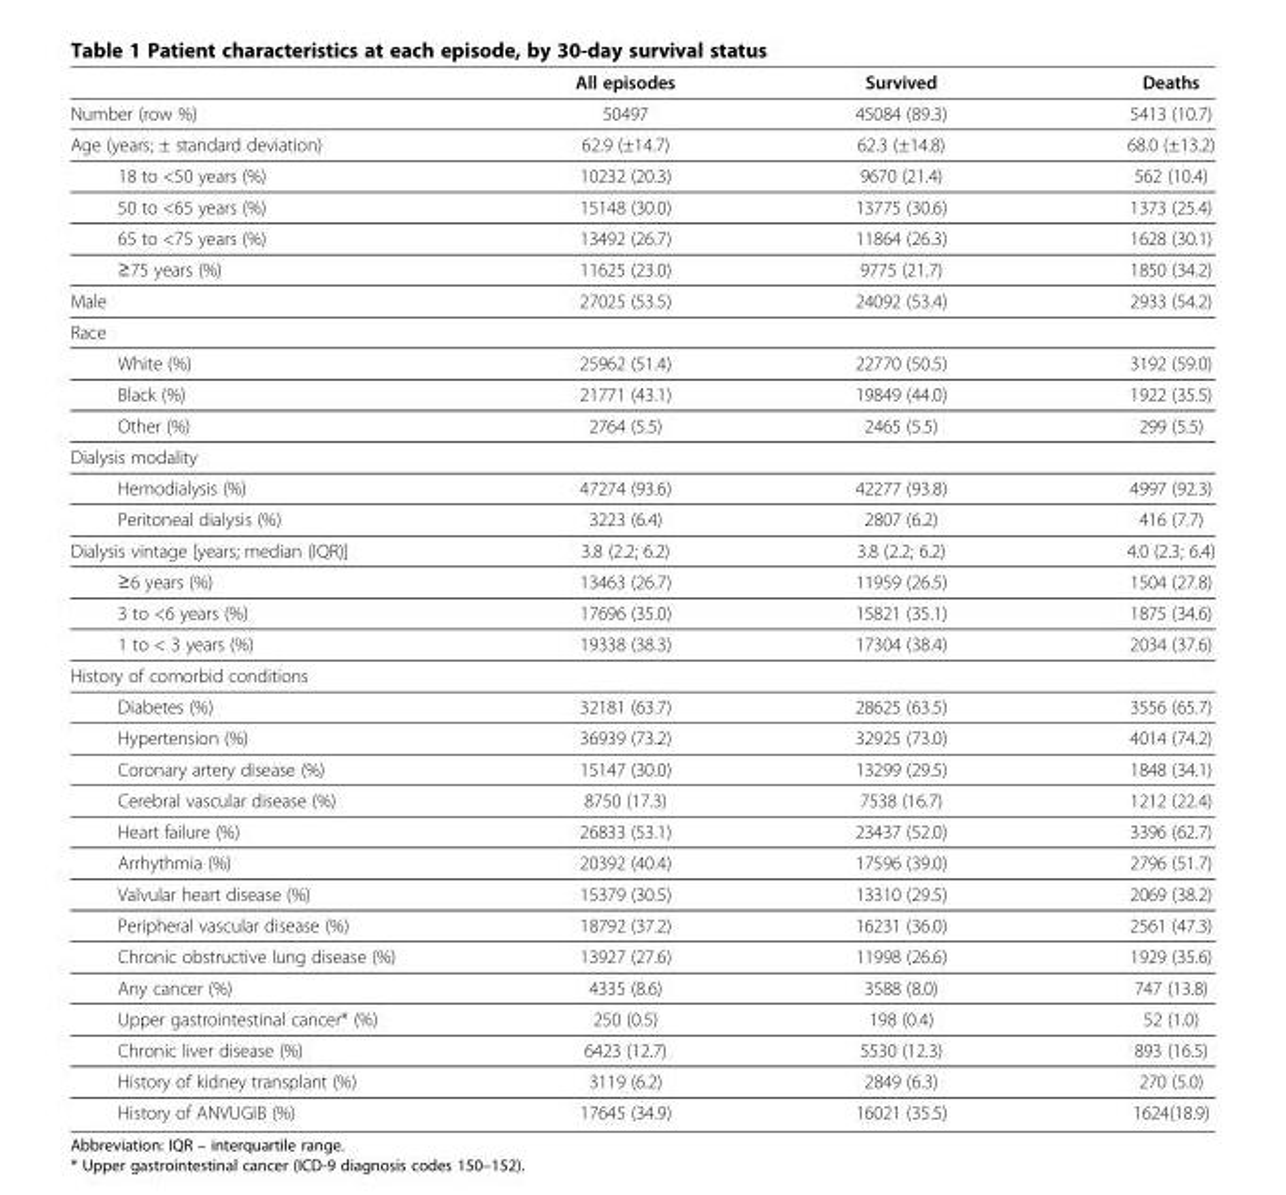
<table><thead><tr><td></td><td>All episodes</td><td>Survived</td><td>Deaths</td></tr></thead><tbody><tr><td>Number (row %)</td><td>50497</td><td>45084 (89.3)</td><td>5413 (10.7)</td></tr><tr><td>Age (years; ± standard deviation)</td><td>62.9 (±14.7)</td><td>62.3 (±14.8)</td><td>68.0 (±13.2)</td></tr><tr><td>18 to &lt;50 years (%)</td><td>10232 (20.3)</td><td>9670 (21.4)</td><td>562 (10.4)</td></tr><tr><td>50 to &lt;65 years (%)</td><td>15148 (30.0)</td><td>13775 (30.6)</td><td>1373 (25.4)</td></tr><tr><td>65 to &lt;75 years (%)</td><td>13492 (26.7)</td><td>11864 (26.3)</td><td>1628 (30.1)</td></tr><tr><td>≥75 years (%)</td><td>11625 (23.0)</td><td>9775 (21.7)</td><td>1850 (34.2)</td></tr><tr><td>Male</td><td>27025 (53.5)</td><td>24092 (53.4)</td><td>2933 (54.2)</td></tr><tr><td colspan="4">Race</td></tr><tr><td>White (%)</td><td>25962 (51.4)</td><td>22770 (50.5)</td><td>3192 (59.0)</td></tr><tr><td>Black (%)</td><td>21771 (43.1)</td><td>19849 (44.0)</td><td>1922 (35.5)</td></tr><tr><td>Other (%)</td><td>2764 (5.5)</td><td>2465 (5.5)</td><td>299 (5.5)</td></tr><tr><td colspan="4">Dialysis modality</td></tr><tr><td>Hemodialysis (%)</td><td>47274 (93.6)</td><td>42277 (93.8)</td><td>4997 (92.3)</td></tr><tr><td>Peritoneal dialysis (%)</td><td>3223 (6.4)</td><td>2807 (6.2)</td><td>416 (7.7)</td></tr><tr><td>Dialysis vintage [years; median (IQR)]</td><td>3.8 (2.2; 6.2)</td><td>3.8 (2.2; 6.2)</td><td>4.0 (2.3; 6.4)</td></tr><tr><td>≥6 years (%)</td><td>13463 (26.7)</td><td>11959 (26.5)</td><td>1504 (27.8)</td></tr><tr><td>3 to &lt;6 years (%)</td><td>17696 (35.0)</td><td>15821 (35.1)</td><td>1875 (34.6)</td></tr><tr><td>1 to &lt; 3 years (%)</td><td>19338 (38.3)</td><td>17304 (38.4)</td><td>2034 (37.6)</td></tr><tr><td colspan="4">History of comorbid conditions</td></tr><tr><td>Diabetes (%)</td><td>32181 (63.7)</td><td>28625 (63.5)</td><td>3556 (65.7)</td></tr><tr><td>Hypertension (%)</td><td>36939 (73.2)</td><td>32925 (73.0)</td><td>4014 (74.2)</td></tr><tr><td>Coronary artery disease (%)</td><td>15147 (30.0)</td><td>13299 (29.5)</td><td>1848 (34.1)</td></tr><tr><td>Cerebral vascular disease (%)</td><td>8750 (17.3)</td><td>7538 (16.7)</td><td>1212 (22.4)</td></tr><tr><td>Heart failure (%)</td><td>26833 (53.1)</td><td>23437 (52.0)</td><td>3396 (62.7)</td></tr><tr><td>Arrhythmia (%)</td><td>20392 (40.4)</td><td>17596 (39.0)</td><td>2796 (51.7)</td></tr><tr><td>Valvular heart disease (%)</td><td>15379 (30.5)</td><td>13310 (29.5)</td><td>2069 (38.2)</td></tr><tr><td>Peripheral vascular disease (%)</td><td>18792 (37.2)</td><td>16231 (36.0)</td><td>2561 (47.3)</td></tr><tr><td>Chronic obstructive lung disease (%)</td><td>13927 (27.6)</td><td>11998 (26.6)</td><td>1929 (35.6)</td></tr><tr><td>Any cancer (%)</td><td>4335 (8.6)</td><td>3588 (8.0)</td><td>747 (13.8)</td></tr><tr><td>Upper gastrointestinal cancer* (%)</td><td>250 (0.5)</td><td>198 (0.4)</td><td>52 (1.0)</td></tr><tr><td>Chronic liver disease (%)</td><td>6423 (12.7)</td><td>5530 (12.3)</td><td>893 (16.5)</td></tr><tr><td>History of kidney transplant (%)</td><td>3119 (6.2)</td><td>2849 (6.3)</td><td>270 (5.0)</td></tr><tr><td>History of ANVUGIB (%)</td><td>17645 (34.9)</td><td>16021 (35.5)</td><td>1624(18.9)</td></tr></tbody></table>